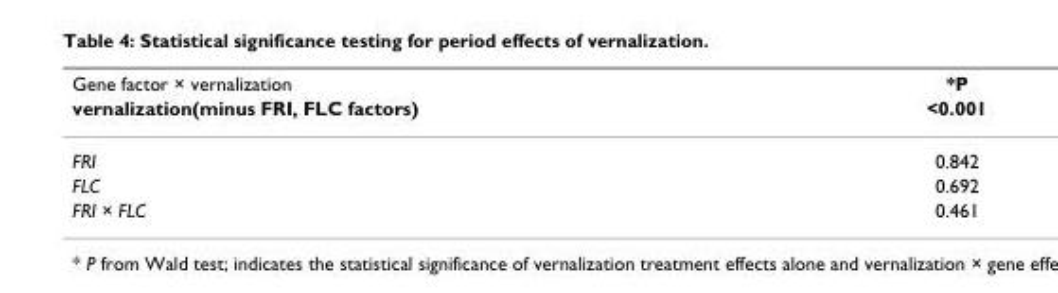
<table><thead><tr><td rowspan="2">Gene factor × vernalization vernalization(minus FRI, FLC factors)</td><td rowspan="2">*P &lt;0.001</td></tr><tr></tr></thead><tbody><tr><td>FRI</td><td>0.842</td></tr><tr><td>FLC</td><td>0.692</td></tr><tr><td>FRI × FLC</td><td>0.461</td></tr></tbody></table>